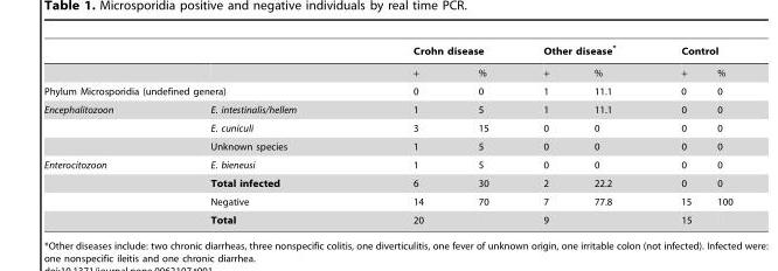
<table><thead><tr><td rowspan="2"></td><td rowspan="2"></td><td colspan="2">Crohn disease</td><td colspan="2">Other disease*</td><td colspan="2">Control</td></tr><tr><td>+</td><td>%</td><td>+</td><td>%</td><td>+</td><td>%</td></tr></thead><tbody><tr><td colspan="2">Phylum Microsporidia (undefined genera)</td><td>0</td><td>0</td><td>1</td><td>11.1</td><td>0</td><td>0</td></tr><tr><td rowspan="3">Encephalitozoon</td><td>E. intestinalis/hellem</td><td>1</td><td>5</td><td>1</td><td>11.1</td><td>0</td><td>0</td></tr><tr><td>E. cuniculi</td><td>3</td><td>15</td><td>0</td><td>0</td><td>0</td><td>0</td></tr><tr><td>Unknown species</td><td>1</td><td>5</td><td>0</td><td>0</td><td>0</td><td>0</td></tr><tr><td rowspan="4">Enterocitozoon</td><td>E. bieneusi</td><td>1</td><td>5</td><td>0</td><td>0</td><td>0</td><td>0</td></tr><tr><td>Total infected</td><td>6</td><td>30</td><td>2</td><td>22.2</td><td>0</td><td>0</td></tr><tr><td>Negative</td><td>14</td><td>70</td><td>7</td><td>77.8</td><td>15</td><td>100</td></tr><tr><td>Total</td><td>20</td><td></td><td>9</td><td></td><td>15</td><td></td></tr></tbody></table>